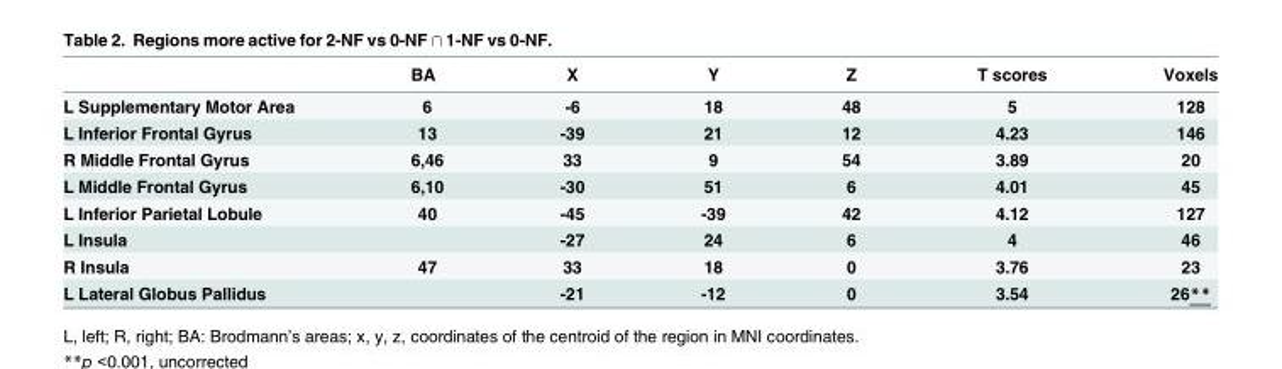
<table><thead><tr><td></td><td>BA</td><td>X</td><td>Y</td><td>Z</td><td>T scores</td><td>Voxels</td></tr></thead><tbody><tr><td>L Supplementary Motor Area</td><td>6</td><td>-6</td><td>18</td><td>48</td><td>5</td><td>128</td></tr><tr><td>L Inferior Frontal Gyrus</td><td>13</td><td>-39</td><td>21</td><td>12</td><td>4.23</td><td>146</td></tr><tr><td>R Middle Frontal Gyrus</td><td>6,46</td><td>33</td><td>9</td><td>54</td><td>3.89</td><td>20</td></tr><tr><td>L Middle Frontal Gyrus</td><td>6,10</td><td>-30</td><td>51</td><td>6</td><td>4.01</td><td>45</td></tr><tr><td>L Inferior Parietal Lobule</td><td>40</td><td>-45</td><td>-39</td><td>42</td><td>4.12</td><td>127</td></tr><tr><td>L Insula</td><td></td><td>-27</td><td>24</td><td>6</td><td>4</td><td>46</td></tr><tr><td>R Insula</td><td>47</td><td>33</td><td>18</td><td>0</td><td>3.76</td><td>23</td></tr><tr><td>L Lateral Globus Pallidus</td><td></td><td>-21</td><td>-12</td><td>0</td><td>3.54</td><td>26**</td></tr></tbody></table>